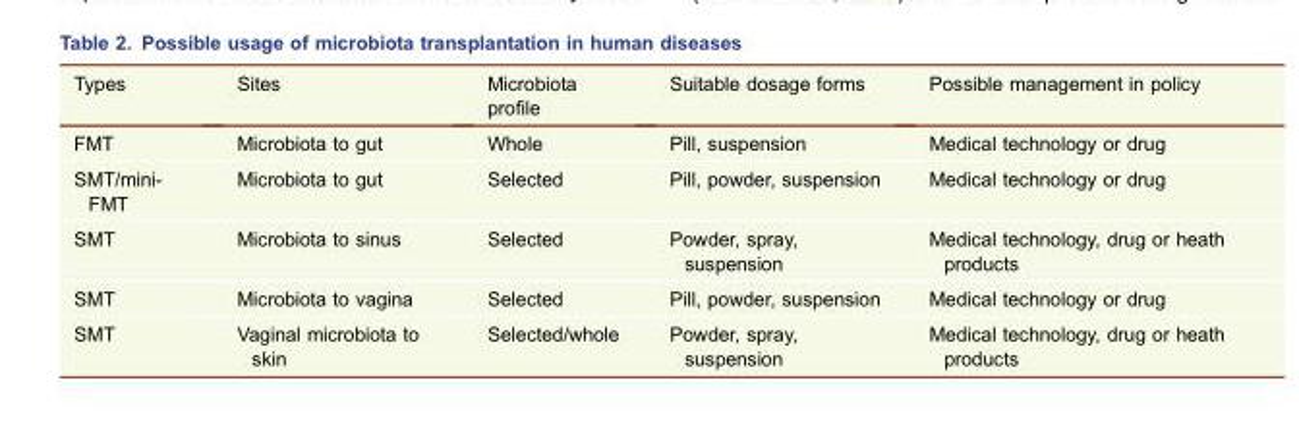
<table><thead><tr><td>Types</td><td>Sites</td><td>Microbiota profile</td><td>Suitable dosage forms</td><td>Possible management in policy</td></tr></thead><tbody><tr><td>FMT</td><td>Microbiota to gut</td><td>Whole</td><td>Pill, suspension</td><td>Medical technology or drug</td></tr><tr><td>SMT/mini- FMT</td><td>Microbiota to gut</td><td>Selected</td><td>Pill, powder, suspension</td><td>Medical technology or drug</td></tr><tr><td>SMT</td><td>Microbiota to sinus</td><td>Selected</td><td>Powder, spray, suspension</td><td>Medical technology, drug or heath products</td></tr><tr><td>SMT</td><td>Microbiota to vagina</td><td>Selected</td><td>Pill, powder, suspension</td><td>Medical technology or drug</td></tr><tr><td>SMT</td><td>Vaginal microbiota to skin</td><td>Selected/whole</td><td>Powder, spray, suspension</td><td>Medical technology, drug or heath products</td></tr></tbody></table>